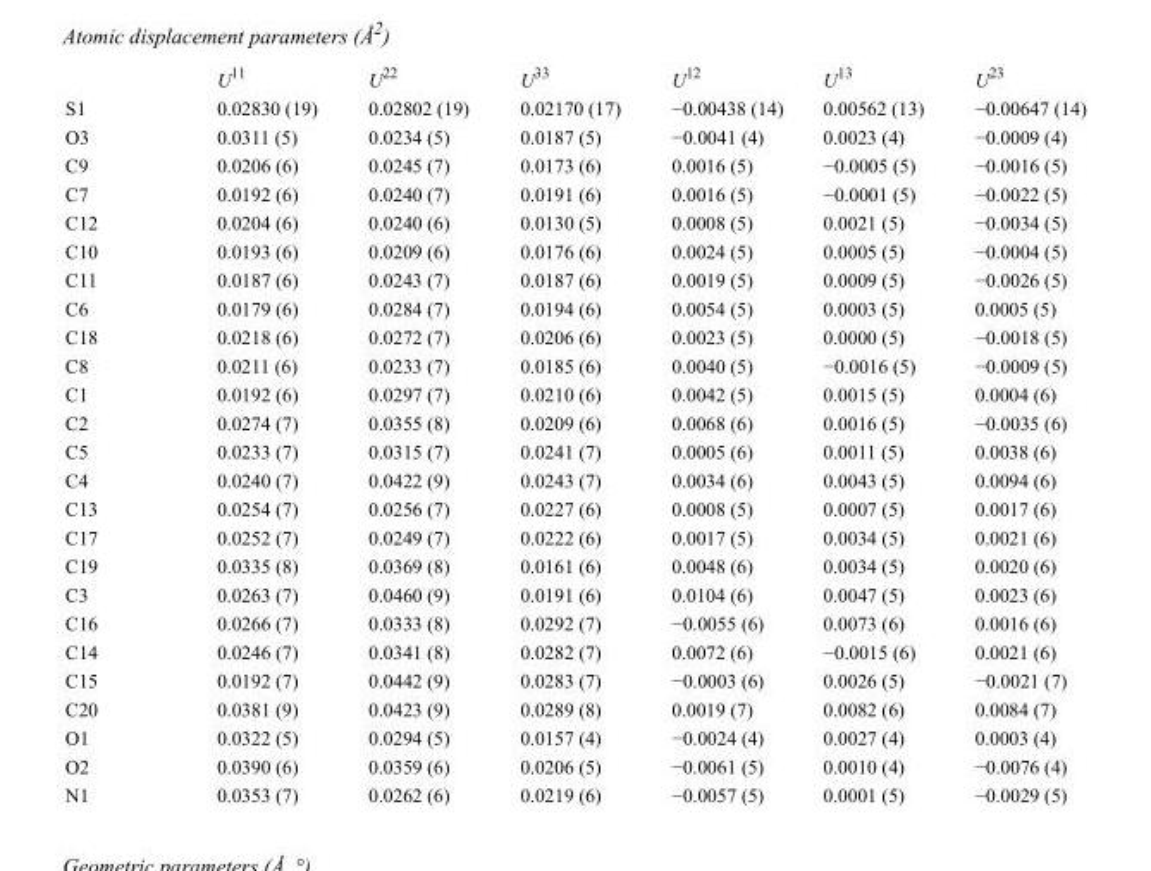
<table><thead><tr><td></td><td>U<sup>11</sup></td><td>U<sup>22</sup></td><td>U<sup>33</sup></td><td>U<sup>12</sup></td><td>U<sup>13</sup></td><td>U<sup>23</sup></td></tr></thead><tbody><tr><td>S1</td><td>0.02830 (19)</td><td>0.02802 (19)</td><td>0.02170 (17)</td><td>−0.00438 (14)</td><td>0.00562 (13)</td><td>−0.00647 (14)</td></tr><tr><td>O3</td><td>0.0311 (5)</td><td>0.0234 (5)</td><td>0.0187 (5)</td><td>−0.0041 (4)</td><td>0.0023 (4)</td><td>−0.0009 (4)</td></tr><tr><td>C9</td><td>0.0206 (6)</td><td>0.0245 (7)</td><td>0.0173 (6)</td><td>0.0016 (5)</td><td>−0.0005 (5)</td><td>−0.0016 (5)</td></tr><tr><td>C7</td><td>0.0192 (6)</td><td>0.0240 (7)</td><td>0.0191 (6)</td><td>0.0016 (5)</td><td>−0.0001 (5)</td><td>−0.0022 (5)</td></tr><tr><td>C12</td><td>0.0204 (6)</td><td>0.0240 (6)</td><td>0.0130 (5)</td><td>0.0008 (5)</td><td>0.0021 (5)</td><td>−0.0034 (5)</td></tr><tr><td>C10</td><td>0.0193 (6)</td><td>0.0209 (6)</td><td>0.0176 (6)</td><td>0.0024 (5)</td><td>0.0005 (5)</td><td>−0.0004 (5)</td></tr><tr><td>C11</td><td>0.0187 (6)</td><td>0.0243 (7)</td><td>0.0187 (6)</td><td>0.0019 (5)</td><td>0.0009 (5)</td><td>−0.0026 (5)</td></tr><tr><td>C6</td><td>0.0179 (6)</td><td>0.0284 (7)</td><td>0.0194 (6)</td><td>0.0054 (5)</td><td>0.0003 (5)</td><td>0.0005 (5)</td></tr><tr><td>C18</td><td>0.0218 (6)</td><td>0.0272 (7)</td><td>0.0206 (6)</td><td>0.0023 (5)</td><td>0.0000 (5)</td><td>−0.0018 (5)</td></tr><tr><td>C8</td><td>0.0211 (6)</td><td>0.0233 (7)</td><td>0.0185 (6)</td><td>0.0040 (5)</td><td>−0.0016 (5)</td><td>−0.0009 (5)</td></tr><tr><td>C1</td><td>0.0192 (6)</td><td>0.0297 (7)</td><td>0.0210 (6)</td><td>0.0042 (5)</td><td>0.0015 (5)</td><td>0.0004 (6)</td></tr><tr><td>C2</td><td>0.0274 (7)</td><td>0.0355 (8)</td><td>0.0209 (6)</td><td>0.0068 (6)</td><td>0.0016 (5)</td><td>−0.0035 (6)</td></tr><tr><td>C5</td><td>0.0233 (7)</td><td>0.0315 (7)</td><td>0.0241 (7)</td><td>0.0005 (6)</td><td>0.0011 (5)</td><td>0.0038 (6)</td></tr><tr><td>C4</td><td>0.0240 (7)</td><td>0.0422 (9)</td><td>0.0243 (7)</td><td>0.0034 (6)</td><td>0.0043 (5)</td><td>0.0094 (6)</td></tr><tr><td>C13</td><td>0.0254 (7)</td><td>0.0256 (7)</td><td>0.0227 (6)</td><td>0.0008 (5)</td><td>0.0007 (5)</td><td>0.0017 (6)</td></tr><tr><td>C17</td><td>0.0252 (7)</td><td>0.0249 (7)</td><td>0.0222 (6)</td><td>0.0017 (5)</td><td>0.0034 (5)</td><td>0.0021 (6)</td></tr><tr><td>C19</td><td>0.0335 (8)</td><td>0.0369 (8)</td><td>0.0161 (6)</td><td>0.0048 (6)</td><td>0.0034 (5)</td><td>0.0020 (6)</td></tr><tr><td>C3</td><td>0.0263 (7)</td><td>0.0460 (9)</td><td>0.0191 (6)</td><td>0.0104 (6)</td><td>0.0047 (5)</td><td>0.0023 (6)</td></tr><tr><td>C16</td><td>0.0266 (7)</td><td>0.0333 (8)</td><td>0.0292 (7)</td><td>−0.0055 (6)</td><td>0.0073 (6)</td><td>0.0016 (6)</td></tr><tr><td>C14</td><td>0.0246 (7)</td><td>0.0341 (8)</td><td>0.0282 (7)</td><td>0.0072 (6)</td><td>−0.0015 (6)</td><td>0.0021 (6)</td></tr><tr><td>C15</td><td>0.0192 (7)</td><td>0.0442 (9)</td><td>0.0283 (7)</td><td>−0.0003 (6)</td><td>0.0026 (5)</td><td>−0.0021 (7)</td></tr><tr><td>C20</td><td>0.0381 (9)</td><td>0.0423 (9)</td><td>0.0289 (8)</td><td>0.0019 (7)</td><td>0.0082 (6)</td><td>0.0084 (7)</td></tr><tr><td>O1</td><td>0.0322 (5)</td><td>0.0294 (5)</td><td>0.0157 (4)</td><td>−0.0024 (4)</td><td>0.0027 (4)</td><td>0.0003 (4)</td></tr><tr><td>O2</td><td>0.0390 (6)</td><td>0.0359 (6)</td><td>0.0206 (5)</td><td>−0.0061 (5)</td><td>0.0010 (4)</td><td>−0.0076 (4)</td></tr><tr><td>N1</td><td>0.0353 (7)</td><td>0.0262 (6)</td><td>0.0219 (6)</td><td>−0.0057 (5)</td><td>0.0001 (5)</td><td>−0.0029 (5)</td></tr></tbody></table>